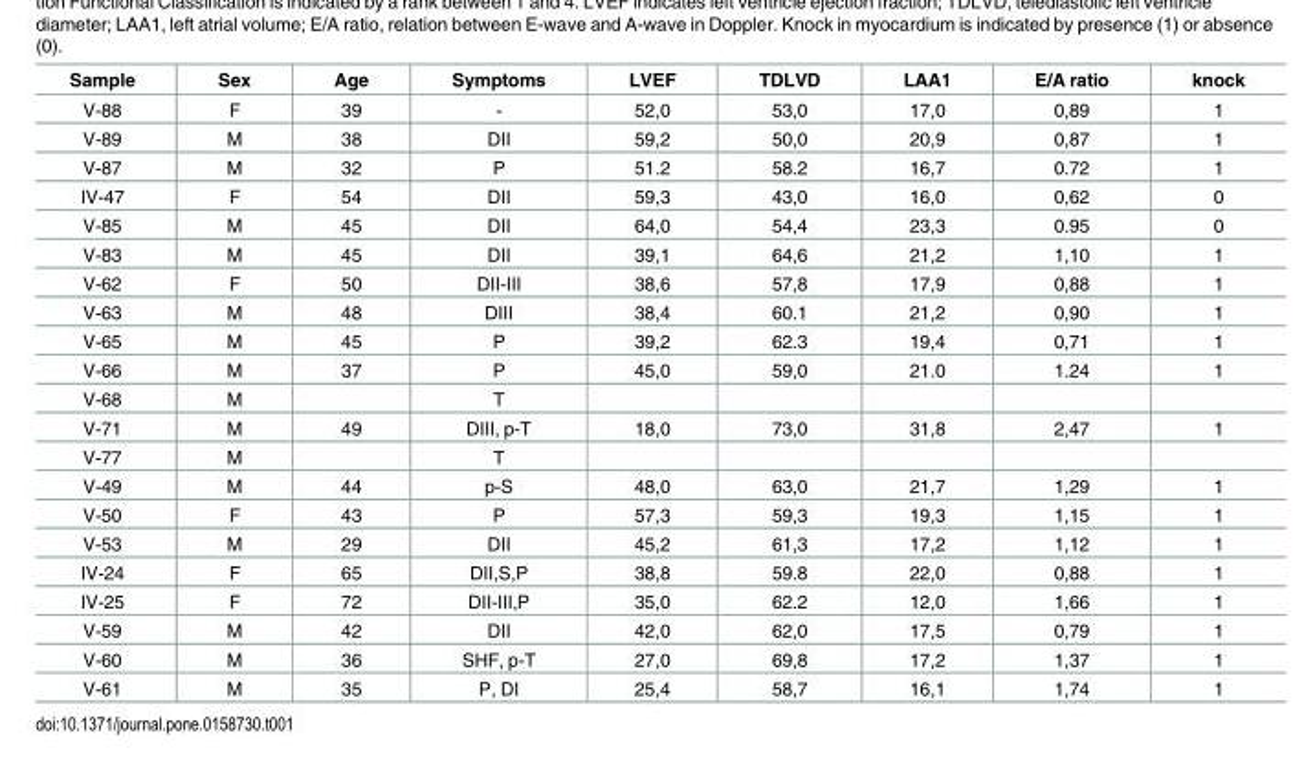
<table><thead><tr><td>Sample</td><td>Sex</td><td>Age</td><td>Symptoms</td><td>LVEF</td><td>TDLVD</td><td>LAA1</td><td>E/A ratio</td><td>knock</td></tr></thead><tbody><tr><td>V-88</td><td>F</td><td>39</td><td>-</td><td>52,0</td><td>53,0</td><td>17,0</td><td>0,89</td><td>1</td></tr><tr><td>V-89</td><td>M</td><td>38</td><td>DII</td><td>59,2</td><td>50,0</td><td>20,9</td><td>0,87</td><td>1</td></tr><tr><td>V-87</td><td>M</td><td>32</td><td>P</td><td>51.2</td><td>58.2</td><td>16,7</td><td>0.72</td><td>1</td></tr><tr><td>IV-47</td><td>F</td><td>54</td><td>DII</td><td>59,3</td><td>43,0</td><td>16,0</td><td>0,62</td><td>0</td></tr><tr><td>V-85</td><td>M</td><td>45</td><td>DII</td><td>64,0</td><td>54,4</td><td>23,3</td><td>0.95</td><td>0</td></tr><tr><td>V-83</td><td>M</td><td>45</td><td>DII</td><td>39,1</td><td>64,6</td><td>21,2</td><td>1,10</td><td>1</td></tr><tr><td>V-62</td><td>F</td><td>50</td><td>DII-III</td><td>38,6</td><td>57,8</td><td>17,9</td><td>0,88</td><td>1</td></tr><tr><td>V-63</td><td>M</td><td>48</td><td>DIII</td><td>38,4</td><td>60.1</td><td>21,2</td><td>0,90</td><td>1</td></tr><tr><td>V-65</td><td>M</td><td>45</td><td>P</td><td>39,2</td><td>62.3</td><td>19,4</td><td>0,71</td><td>1</td></tr><tr><td>V-66</td><td>M</td><td>37</td><td>P</td><td>45,0</td><td>59,0</td><td>21.0</td><td>1.24</td><td>1</td></tr><tr><td>V-68</td><td>M</td><td></td><td>T</td><td></td><td></td><td></td><td></td><td></td></tr><tr><td>V-71</td><td>M</td><td>49</td><td>DIII, p-T</td><td>18,0</td><td>73,0</td><td>31,8</td><td>2,47</td><td>1</td></tr><tr><td>V-77</td><td>M</td><td></td><td>T</td><td></td><td></td><td></td><td></td><td></td></tr><tr><td>V-49</td><td>M</td><td>44</td><td>p-S</td><td>48,0</td><td>63,0</td><td>21,7</td><td>1,29</td><td>1</td></tr><tr><td>V-50</td><td>F</td><td>43</td><td>P</td><td>57,3</td><td>59,3</td><td>19,3</td><td>1,15</td><td>1</td></tr><tr><td>V-53</td><td>M</td><td>29</td><td>DII</td><td>45,2</td><td>61,3</td><td>17,2</td><td>1,12</td><td>1</td></tr><tr><td>IV-24</td><td>F</td><td>65</td><td>DII,S,P</td><td>38,8</td><td>59.8</td><td>22,0</td><td>0,88</td><td>1</td></tr><tr><td>IV-25</td><td>F</td><td>72</td><td>DII-III,P</td><td>35,0</td><td>62.2</td><td>12,0</td><td>1,66</td><td>1</td></tr><tr><td>V-59</td><td>M</td><td>42</td><td>DII</td><td>42,0</td><td>62,0</td><td>17,5</td><td>0,79</td><td>1</td></tr><tr><td>V-60</td><td>M</td><td>36</td><td>SHF, p-T</td><td>27,0</td><td>69,8</td><td>17,2</td><td>1,37</td><td>1</td></tr><tr><td>V-61</td><td>M</td><td>35</td><td>P, DI</td><td>25,4</td><td>58,7</td><td>16,1</td><td>1,74</td><td>1</td></tr></tbody></table>